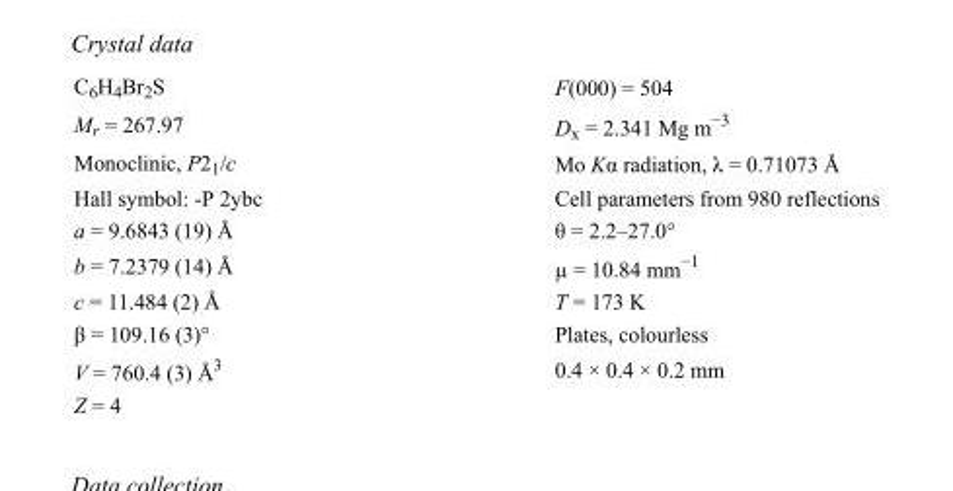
<table><tbody><tr><td>C<sub>6</sub>H<sub>4</sub>Br<sub>2</sub>S</td><td>F(000) = 504</td></tr><tr><td>M<sub>r</sub> = 267.97</td><td>D<sub>x</sub> = 2.341 Mg m<sup>−3</sup></td></tr><tr><td>Monoclinic, P2<sub>1</sub>/c</td><td>Mo Kα radiation, λ = 0.71073 Å</td></tr><tr><td>Hall symbol: -P 2ybc</td><td>Cell parameters from 980 reflections</td></tr><tr><td>a = 9.6843 (19) Å</td><td>θ = 2.2–27.0°</td></tr><tr><td>b = 7.2379 (14) Å</td><td>µ = 10.84 mm<sup>−1</sup></td></tr><tr><td>c = 11.484 (2) Å</td><td>T = 173 K</td></tr><tr><td>β = 109.16 (3)°</td><td>Plates, colourless</td></tr><tr><td>V = 760.4 (3) Å<sup>3</sup></td><td>0.4 × 0.4 × 0.2 mm</td></tr><tr><td>Z = 4</td><td></td></tr></tbody></table>